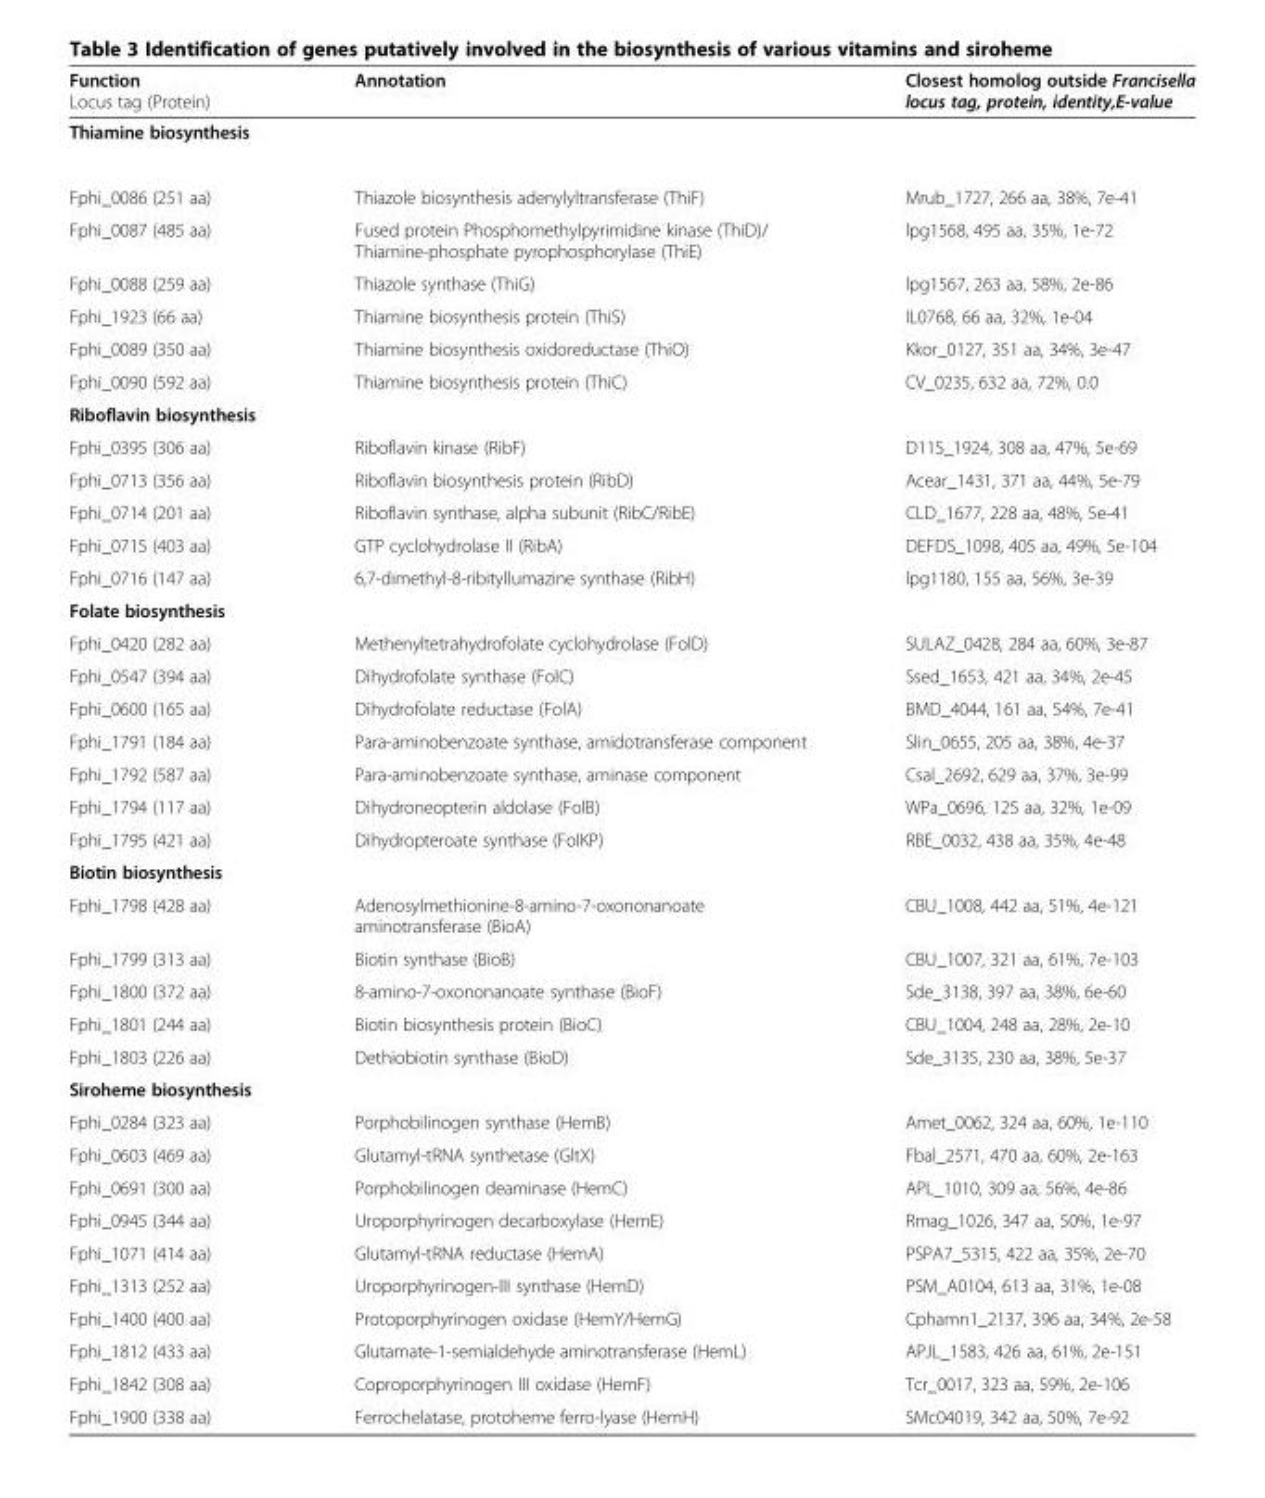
<table><thead><tr><td>Function Locus tag (Protein)</td><td>Annotation</td><td>Closest homolog outside Francisella locus tag, protein, identity,E-value</td></tr></thead><tbody><tr><td colspan="3">Thiamine biosynthesis</td></tr><tr><td>Fphi_0086 (251 aa)</td><td>Thiazole biosynthesis adenylyltransferase (ThiF)</td><td>Mrub_1727, 266 aa, 38%, 7e-41</td></tr><tr><td>Fphi_0087 (485 aa)</td><td>Fused protein Phosphomethylpyrimidine kinase (ThiD)/ Thiamine-phosphate pyrophosphorylase (ThiE)</td><td>lpg1568, 495 aa, 35%, 1e-72</td></tr><tr><td>Fphi_0088 (259 aa)</td><td>Thiazole synthase (ThiG)</td><td>lpg1567, 263 aa, 58%, 2e-86</td></tr><tr><td>Fphi_1923 (66 aa)</td><td>Thiamine biosynthesis protein (ThiS)</td><td>IL0768, 66 aa, 32%, 1e-04</td></tr><tr><td>Fphi_0089 (350 aa)</td><td>Thiamine biosynthesis oxidoreductase (ThiO)</td><td>Kkor_0127, 351 aa, 34%, 3e-47</td></tr><tr><td>Fphi_0090 (592 aa)</td><td>Thiamine biosynthesis protein (ThiC)</td><td>CV_0235, 632 aa, 72%, 0.0</td></tr><tr><td colspan="3">Riboflavin biosynthesis</td></tr><tr><td>Fphi_0395 (306 aa)</td><td>Riboflavin kinase (RibF)</td><td>D11S_1924, 308 aa, 47%, 5e-69</td></tr><tr><td>Fphi_0713 (356 aa)</td><td>Riboflavin biosynthesis protein (RibD)</td><td>Acear_1431, 371 aa, 44%, 5e-79</td></tr><tr><td>Fphi_0714 (201 aa)</td><td>Riboflavin synthase, alpha subunit (RibC/RibE)</td><td>CLD_1677, 228 aa, 48%, 5e-41</td></tr><tr><td>Fphi_0715 (403 aa)</td><td>GTP cyclohydrolase II (RibA)</td><td>DEFDS_1098, 405 aa, 49%, 5e-104</td></tr><tr><td>Fphi_0716 (147 aa)</td><td>6,7-dimethyl-8-ribityllumazine synthase (RibH)</td><td>lpg1180, 155 aa, 56%, 3e-39</td></tr><tr><td colspan="3">Folate biosynthesis</td></tr><tr><td>Fphi_0420 (282 aa)</td><td>Methenyltetrahydrofolate cyclohydrolase (FolD)</td><td>SULAZ_0428, 284 aa, 60%, 3e-87</td></tr><tr><td>Fphi_0547 (394 aa)</td><td>Dihydrofolate synthase (FolC)</td><td>Ssed_1653, 421 aa, 34%, 2e-45</td></tr><tr><td>Fphi_0600 (165 aa)</td><td>Dihydrofolate reductase (FolA)</td><td>BMD_4044, 161 aa, 54%, 7e-41</td></tr><tr><td>Fphi_1791 (184 aa)</td><td>Para-aminobenzoate synthase, amidotransferase component</td><td>Slin_0655, 205 aa, 38%, 4e-37</td></tr><tr><td>Fphi_1792 (587 aa)</td><td>Para-aminobenzoate synthase, aminase component</td><td>Csal_2692, 629 aa, 37%, 3e-99</td></tr><tr><td>Fphi_1794 (117 aa)</td><td>Dihydroneopterin aldolase (FolB)</td><td>WPa_0696, 125 aa, 32%, 1e-09</td></tr><tr><td>Fphi_1795 (421 aa)</td><td>Dihydropteroate synthase (FolKP)</td><td>RBE_0032, 438 aa, 35%, 4e-48</td></tr><tr><td colspan="3">Biotin biosynthesis</td></tr><tr><td>Fphi_1798 (428 aa)</td><td>Adenosylmethionine-8-amino-7-oxononanoate aminotransferase (BioA)</td><td>CBU_1008, 442 aa, 51%, 4e-121</td></tr><tr><td>Fphi_1799 (313 aa)</td><td>Biotin synthase (BioB)</td><td>CBU_1007, 321 aa, 61%, 7e-103</td></tr><tr><td>Fphi_1800 (372 aa)</td><td>8-amino-7-oxononanoate synthase (BioF)</td><td>Sde_3138, 397 aa, 38%, 6e-60</td></tr><tr><td>Fphi_1801 (244 aa)</td><td>Biotin biosynthesis protein (BioC)</td><td>CBU_1004, 248 aa, 28%, 2e-10</td></tr><tr><td>Fphi_1803 (226 aa)</td><td>Dethiobiotin synthase (BioD)</td><td>Sde_3135, 230 aa, 38%, 5e-37</td></tr><tr><td colspan="3">Siroheme biosynthesis</td></tr><tr><td>Fphi_0284 (323 aa)</td><td>Porphobilinogen synthase (HemB)</td><td>Amet_0062, 324 aa, 60%, 1e-110</td></tr><tr><td>Fphi_0603 (469 aa)</td><td>Glutamyl-tRNA synthetase (GltX)</td><td>Fbal_2571, 470 aa, 60%, 2e-163</td></tr><tr><td>Fphi_0691 (300 aa)</td><td>Porphobilinogen deaminase (HemC)</td><td>APL_1010, 309 aa, 56%, 4e-86</td></tr><tr><td>Fphi_0945 (344 aa)</td><td>Uroporphyrinogen decarboxylase (HemE)</td><td>Rmag_1026, 347 aa, 50%, 1e-97</td></tr><tr><td>Fphi_1071 (414 aa)</td><td>Glutamyl-tRNA reductase (HemA)</td><td>PSPA7_5315, 422 aa, 35%, 2e-70</td></tr><tr><td>Fphi_1313 (252 aa)</td><td>Uroporphyrinogen-III synthase (HemD)</td><td>PSM_A0104, 613 aa, 31%, 1e-08</td></tr><tr><td>Fphi_1400 (400 aa)</td><td>Protoporphyrinogen oxidase (HemY/HemG)</td><td>Cphamn1_2137, 396 aa, 34%, 2e-58</td></tr><tr><td>Fphi_1812 (433 aa)</td><td>Glutamate-1-semialdehyde aminotransferase (HemL)</td><td>APJL_1583, 426 aa, 61%, 2e-151</td></tr><tr><td>Fphi_1842 (308 aa)</td><td>Coproporphyrinogen III oxidase (HemF)</td><td>Tcr_0017, 323 aa, 59%, 2e-106</td></tr><tr><td>Fphi_1900 (338 aa)</td><td>Ferrochelatase, protoheme ferro-lyase (HemH)</td><td>SMc04019, 342 aa, 50%, 7e-92</td></tr></tbody></table>